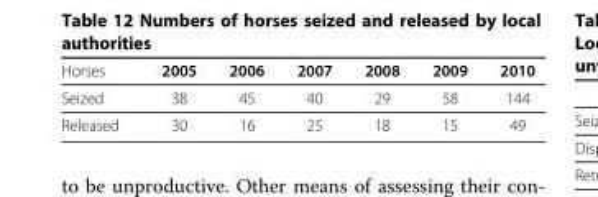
<table><thead><tr><td>Horses</td><td>2005</td><td>2006</td><td>2007</td><td>2008</td><td>2009</td><td>2010</td></tr></thead><tbody><tr><td>Seized</td><td>38</td><td>45</td><td>40</td><td>29</td><td>58</td><td>144</td></tr><tr><td>Released</td><td>30</td><td>16</td><td>25</td><td>18</td><td>15</td><td>49</td></tr></tbody></table>